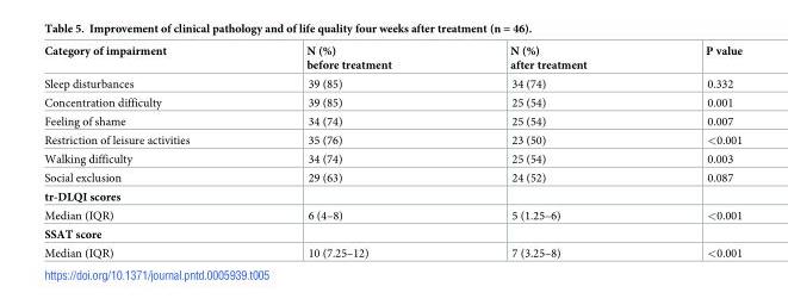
<table><thead><tr><td>Category of impairment</td><td>N (%) before treatment</td><td>N (%) after treatment</td><td>P value</td></tr></thead><tbody><tr><td>Sleep disturbances</td><td>39 (85)</td><td>34 (74)</td><td>0.332</td></tr><tr><td>Concentration difficulty</td><td>39 (85)</td><td>25 (54)</td><td>0.001</td></tr><tr><td>Feeling of shame</td><td>34 (74)</td><td>25 (54)</td><td>0.007</td></tr><tr><td>Restriction of leisure activities</td><td>35 (76)</td><td>23 (50)</td><td>&lt;0.001</td></tr><tr><td>Walking difficulty</td><td>34 (74)</td><td>25 (54)</td><td>0.003</td></tr><tr><td>Social exclusion</td><td>29 (63)</td><td>24 (52)</td><td>0.087</td></tr><tr><td colspan="4">tr-DLQI scores</td></tr><tr><td>Median (IQR)</td><td>6 (4–8)</td><td>5 (1.25–6)</td><td>&lt;0.001</td></tr><tr><td colspan="4">SSAT score</td></tr><tr><td>Median (IQR)</td><td>10 (7.25–12)</td><td>7 (3.25–8)</td><td>&lt;0.001</td></tr></tbody></table>